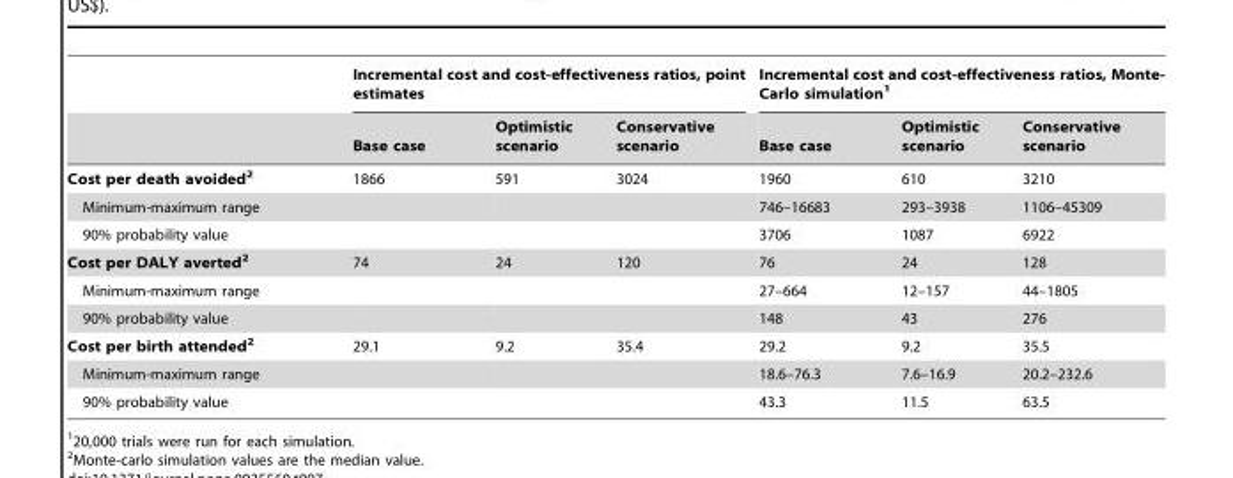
<table><thead><tr><td rowspan="2"></td><td colspan="3">Incremental cost and cost-effectiveness ratios, point estimates</td><td colspan="3">Incremental cost and cost-effectiveness ratios, Monte- Carlo simulation<sup>1</sup></td></tr><tr><td>Base case</td><td>Optimistic scenario</td><td>Conservative scenario</td><td>Base case</td><td>Optimistic scenario</td><td>Conservative scenario</td></tr></thead><tbody><tr><td>Cost per death avoided2</td><td>1866</td><td>591</td><td>3024</td><td>1960</td><td>610</td><td>3210</td></tr><tr><td>Minimum-maximum range</td><td></td><td></td><td></td><td>746–16683</td><td>293–3938</td><td>1106–45309</td></tr><tr><td>90% probability value</td><td></td><td></td><td></td><td>3706</td><td>1087</td><td>6922</td></tr><tr><td>Cost per DALY averted2</td><td>74</td><td>24</td><td>120</td><td>76</td><td>24</td><td>128</td></tr><tr><td>Minimum-maximum range</td><td></td><td></td><td></td><td>27–664</td><td>12–157</td><td>44–1805</td></tr><tr><td>90% probability value</td><td></td><td></td><td></td><td>148</td><td>43</td><td>276</td></tr><tr><td>Cost per birth attended2</td><td>29.1</td><td>9.2</td><td>35.4</td><td>29.2</td><td>9.2</td><td>35.5</td></tr><tr><td>Minimum-maximum range</td><td></td><td></td><td></td><td>18.6–76.3</td><td>7.6–16.9</td><td>20.2–232.6</td></tr><tr><td>90% probability value</td><td></td><td></td><td></td><td>43.3</td><td>11.5</td><td>63.5</td></tr></tbody></table>